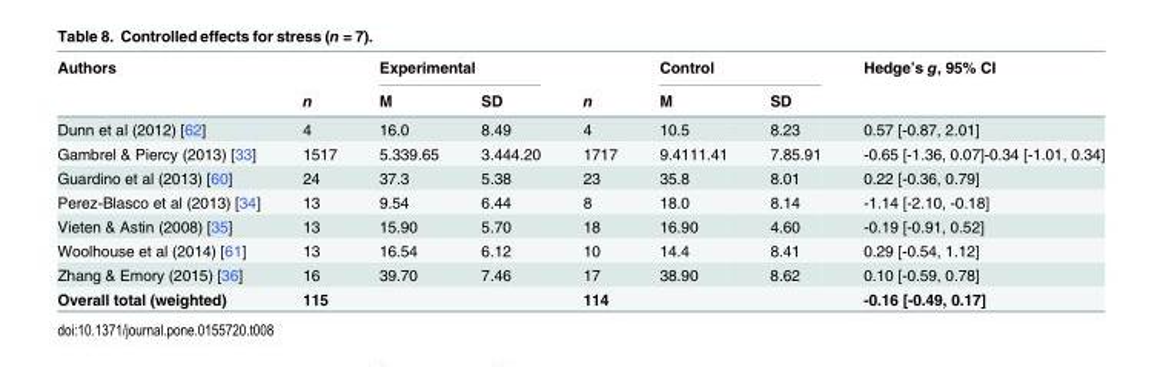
<table><thead><tr><td rowspan="2">Authors</td><td rowspan="2">n</td><td colspan="2">Experimental</td><td rowspan="2">n</td><td colspan="2">Control</td><td rowspan="2">Hedge’s g, 95% CI</td></tr><tr><td>M</td><td>SD</td><td>M</td><td>SD</td></tr></thead><tbody><tr><td>Dunn et al (2012) [62]</td><td>4</td><td>16.0</td><td>8.49</td><td>4</td><td>10.5</td><td>8.23</td><td>0.57 [-0.87, 2.01]</td></tr><tr><td>Gambrel &amp; Piercy (2013) [33]</td><td>1517</td><td>5.339.65</td><td>3.444.20</td><td>1717</td><td>9.4111.41</td><td>7.85.91</td><td>-0.65 [-1.36, 0.07]-0.34 [-1.01, 0.34]</td></tr><tr><td>Guardino et al (2013) [60]</td><td>24</td><td>37.3</td><td>5.38</td><td>23</td><td>35.8</td><td>8.01</td><td>0.22 [-0.36, 0.79]</td></tr><tr><td>Perez-Blasco et al (2013) [34]</td><td>13</td><td>9.54</td><td>6.44</td><td>8</td><td>18.0</td><td>8.14</td><td>-1.14 [-2.10, -0.18]</td></tr><tr><td>Vieten &amp; Astin (2008) [35]</td><td>13</td><td>15.90</td><td>5.70</td><td>18</td><td>16.90</td><td>4.60</td><td>-0.19 [-0.91, 0.52]</td></tr><tr><td>Woolhouse et al (2014) [61]</td><td>13</td><td>16.54</td><td>6.12</td><td>10</td><td>14.4</td><td>8.41</td><td>0.29 [-0.54, 1.12]</td></tr><tr><td>Zhang &amp; Emory (2015) [36]</td><td>16</td><td>39.70</td><td>7.46</td><td>17</td><td>38.90</td><td>8.62</td><td>0.10 [-0.59, 0.78]</td></tr><tr><td>Overall total (weighted)</td><td>115</td><td></td><td></td><td>114</td><td></td><td></td><td>-0.16 [-0.49, 0.17]</td></tr></tbody></table>